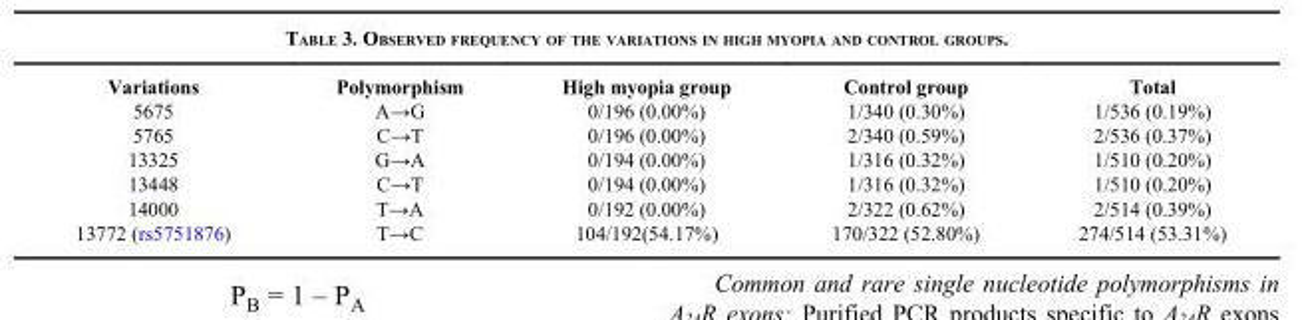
<table><thead><tr><td>Variations</td><td>Polymorphism</td><td>High myopia group</td><td>Control group</td><td>Total</td></tr></thead><tbody><tr><td>5675</td><td>A→G</td><td>0/196 (0.00%)</td><td>1/340 (0.30%)</td><td>1/536 (0.19%)</td></tr><tr><td>5765</td><td>C→T</td><td>0/196 (0.00%)</td><td>2/340 (0.59%)</td><td>2/536 (0.37%)</td></tr><tr><td>13325</td><td>G→A</td><td>0/194 (0.00%)</td><td>1/316 (0.32%)</td><td>1/510 (0.20%)</td></tr><tr><td>13448</td><td>C→T</td><td>0/194 (0.00%)</td><td>1/316 (0.32%)</td><td>1/510 (0.20%)</td></tr><tr><td>14000</td><td>T→A</td><td>0/192 (0.00%)</td><td>2/322 (0.62%)</td><td>2/514 (0.39%)</td></tr><tr><td>13772 (rs5751876)</td><td>T→C</td><td>104/192(54.17%)</td><td>170/322 (52.80%)</td><td>274/514 (53.31%)</td></tr></tbody></table>